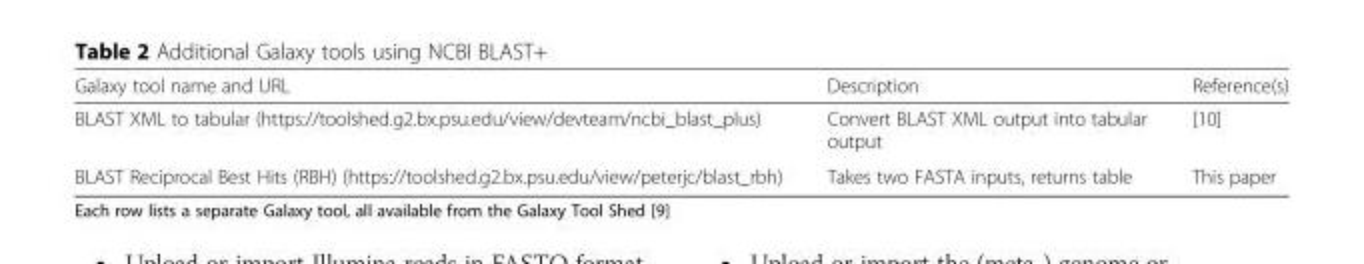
<table><thead><tr><td>Galaxy tool name and URL</td><td>Description</td><td>Reference(s)</td></tr></thead><tbody><tr><td>BLAST XML to tabular (https://toolshed.g2.bx.psu.edu/view/devteam/ncbi_blast_plus)</td><td>Convert BLAST XML output into tabular output</td><td>[10]</td></tr><tr><td>BLAST Reciprocal Best Hits (RBH) (https://toolshed.g2.bx.psu.edu/view/peterjc/blast_rbh)</td><td>Takes two FASTA inputs, returns table</td><td>This paper</td></tr></tbody></table>